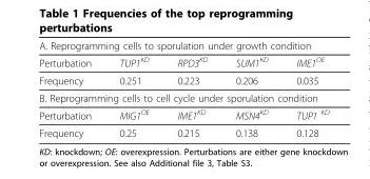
<table><thead><tr><td colspan="5">A. Reprogramming cells to sporulation under growth condition</td></tr><tr><td>Perturbation</td><td>TUP1<sup>KD</sup></td><td>RPD3<sup>KD</sup></td><td>SUM1<sup>KD</sup></td><td>IME1<sup>OE</sup></td></tr></thead><tbody><tr><td>Frequency</td><td>0.251</td><td>0.223</td><td>0.206</td><td>0.035</td></tr><tr><td colspan="5">B. Reprogramming cells to cell cycle under sporulation condition</td></tr><tr><td>Perturbation</td><td>MIG1<sup>OE</sup></td><td>IME1<sup>KD</sup></td><td>MSN4<sup>KD</sup></td><td>TUP1 <sup>KD</sup></td></tr><tr><td>Frequency</td><td>0.25</td><td>0.215</td><td>0.138</td><td>0.128</td></tr></tbody></table>